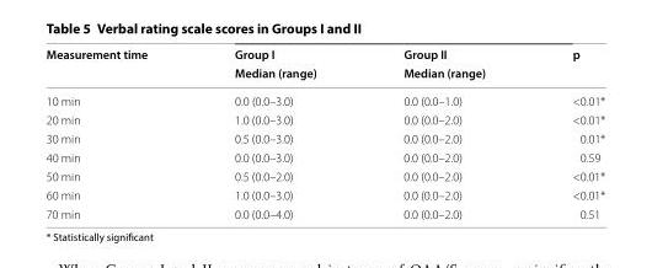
<table><thead><tr><td rowspan="2">Measurement time</td><td rowspan="2">Group I Median (range)</td><td rowspan="2">Group II Median (range)</td><td rowspan="2">p</td></tr><tr></tr></thead><tbody><tr><td>10 min</td><td>0.0 (0.0–3.0)</td><td>0.0 (0.0–1.0)</td><td>&lt;0.01*</td></tr><tr><td>20 min</td><td>1.0 (0.0–3.0)</td><td>0.0 (0.0–2.0)</td><td>&lt;0.01*</td></tr><tr><td>30 min</td><td>0.5 (0.0–3.0)</td><td>0.0 (0.0–2.0)</td><td>0.01*</td></tr><tr><td>40 min</td><td>0.0 (0.0–3.0)</td><td>0.0 (0.0–2.0)</td><td>0.59</td></tr><tr><td>50 min</td><td>0.5 (0.0–2.0)</td><td>0.0 (0.0–2.0)</td><td>&lt;0.01*</td></tr><tr><td>60 min</td><td>1.0 (0.0–3.0)</td><td>0.0 (0.0–2.0)</td><td>&lt;0.01*</td></tr><tr><td>70 min</td><td>0.0 (0.0–4.0)</td><td>0.0 (0.0–2.0)</td><td>0.51</td></tr></tbody></table>